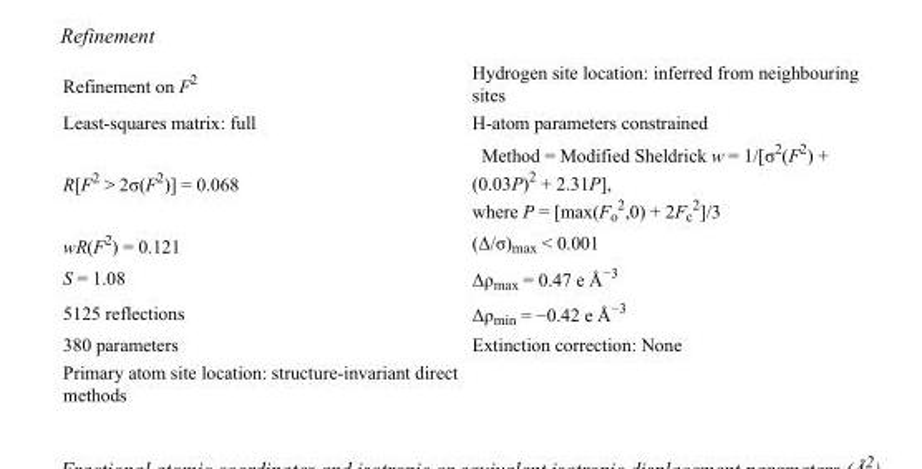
<table><tbody><tr><td>Refinement on F<sup>2</sup></td><td>Hydrogen site location: inferred from neighbouring sites</td></tr><tr><td>Least-squares matrix: full</td><td>H-atom parameters constrained</td></tr><tr><td>R[F<sup>2</sup> &gt; 2σ(F<sup>2</sup>)] = 0.068</td><td>Method = Modified Sheldrick w = 1/[σ<sup>2</sup>(F<sup>2</sup>) + (0.03P)<sup>2</sup> + 2.31P], where P = [max(F<sub>o</sub> <sup>2</sup>,0) + 2F<sub>c</sub> <sup>2</sup>]/3</td></tr><tr><td>wR(F<sup>2</sup>) = 0.121</td><td>(Δ/σ)<sub>max</sub> &lt; 0.001</td></tr><tr><td>S = 1.08</td><td>Δρ<sub>max</sub> = 0.47 e Å<sup>−3</sup></td></tr><tr><td>5125 reflections</td><td>Δρ<sub>min</sub> = −0.42 e Å<sup>−3</sup></td></tr><tr><td>380 parameters</td><td>Extinction correction: None</td></tr><tr><td>Primary atom site location: structure-invariant direct methods</td><td></td></tr></tbody></table>